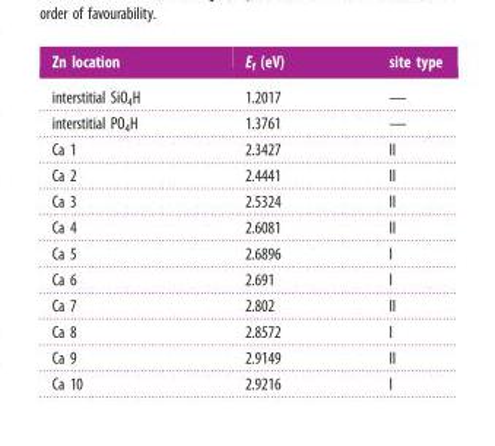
<table><thead><tr><td>Zn location</td><td>E<sub>f</sub> (eV)</td><td>site type</td></tr></thead><tbody><tr><td>interstitial SiO<sub>4</sub>H</td><td>1.2017</td><td>—</td></tr><tr><td>interstitial PO<sub>4</sub>H</td><td>1.3761</td><td>—</td></tr><tr><td>Ca 1</td><td>2.3427</td><td>II</td></tr><tr><td>Ca 2</td><td>2.4441</td><td>II</td></tr><tr><td>Ca 3</td><td>2.5324</td><td>II</td></tr><tr><td>Ca 4</td><td>2.6081</td><td>II</td></tr><tr><td>Ca 5</td><td>2.6896</td><td>I</td></tr><tr><td>Ca 6</td><td>2.691</td><td>I</td></tr><tr><td>Ca 7</td><td>2.802</td><td>II</td></tr><tr><td>Ca 8</td><td>2.8572</td><td>I</td></tr><tr><td>Ca 9</td><td>2.9149</td><td>II</td></tr><tr><td>Ca 10</td><td>2.9216</td><td>I</td></tr></tbody></table>